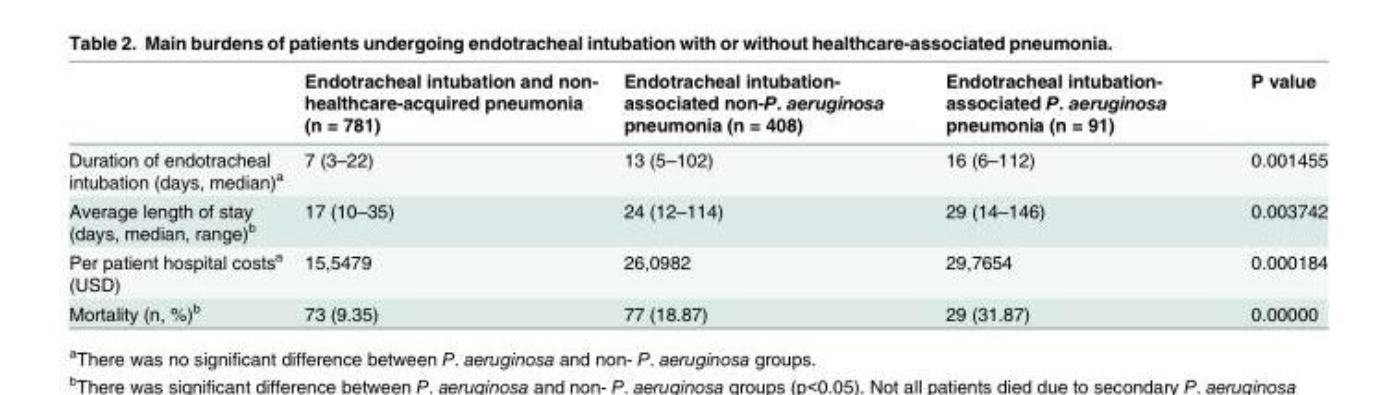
<table><thead><tr><td></td><td>Endotracheal intubation and non- healthcare-acquired pneumonia (n = 781)</td><td>Endotracheal intubation- associated non-P. aeruginosa pneumonia (n = 408)</td><td>Endotracheal intubation- associated P. aeruginosa pneumonia (n = 91)</td><td>P value</td></tr></thead><tbody><tr><td>Duration of endotracheal intubation (days, median)<sup>a</sup></td><td>7 (3–22)</td><td>13 (5–102)</td><td>16 (6–112)</td><td>0.001455</td></tr><tr><td>Average length of stay (days, median, range)<sup>b</sup></td><td>17 (10–35)</td><td>24 (12–114)</td><td>29 (14–146)</td><td>0.003742</td></tr><tr><td>Per patient hospital costs<sup>a</sup> (USD)</td><td>15,5479</td><td>26,0982</td><td>29,7654</td><td>0.000184</td></tr><tr><td>Mortality (n, %)<sup>b</sup></td><td>73 (9.35)</td><td>77 (18.87)</td><td>29 (31.87)</td><td>0.00000</td></tr></tbody></table>